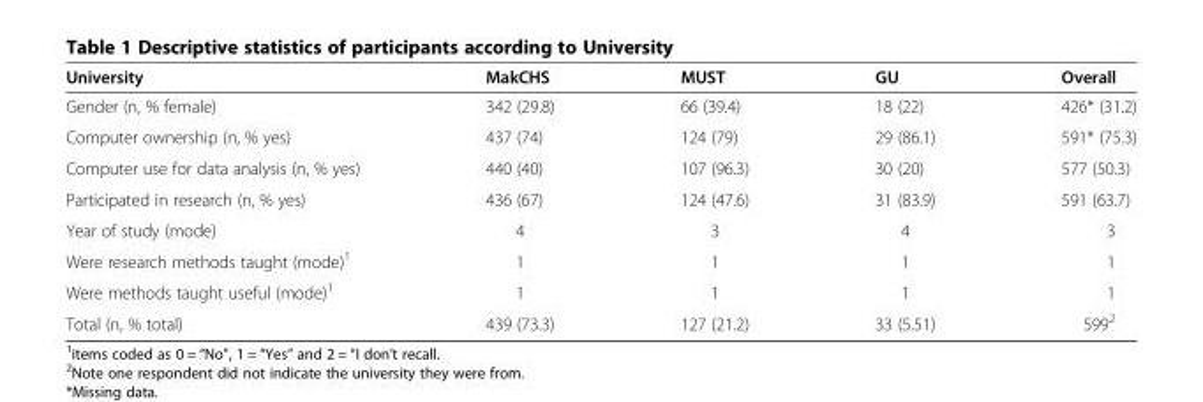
<table><thead><tr><td>University</td><td>MakCHS</td><td>MUST</td><td>GU</td><td>Overall</td></tr></thead><tbody><tr><td>Gender (n, % female)</td><td>342 (29.8)</td><td>66 (39.4)</td><td>18 (22)</td><td>426* (31.2)</td></tr><tr><td>Computer ownership (n, % yes)</td><td>437 (74)</td><td>124 (79)</td><td>29 (86.1)</td><td>591* (75.3)</td></tr><tr><td>Computer use for data analysis (n, % yes)</td><td>440 (40)</td><td>107 (96.3)</td><td>30 (20)</td><td>577 (50.3)</td></tr><tr><td>Participated in research (n, % yes)</td><td>436 (67)</td><td>124 (47.6)</td><td>31 (83.9)</td><td>591 (63.7)</td></tr><tr><td>Year of study (mode)</td><td>4</td><td>3</td><td>4</td><td>3</td></tr><tr><td>Were research methods taught (mode)<sup>1</sup></td><td>1</td><td>1</td><td>1</td><td>1</td></tr><tr><td>Were methods taught useful (mode)<sup>1</sup></td><td>1</td><td>1</td><td>1</td><td>1</td></tr><tr><td>Total (n, % total)</td><td>439 (73.3)</td><td>127 (21.2)</td><td>33 (5.51)</td><td>599<sup>2</sup></td></tr></tbody></table>